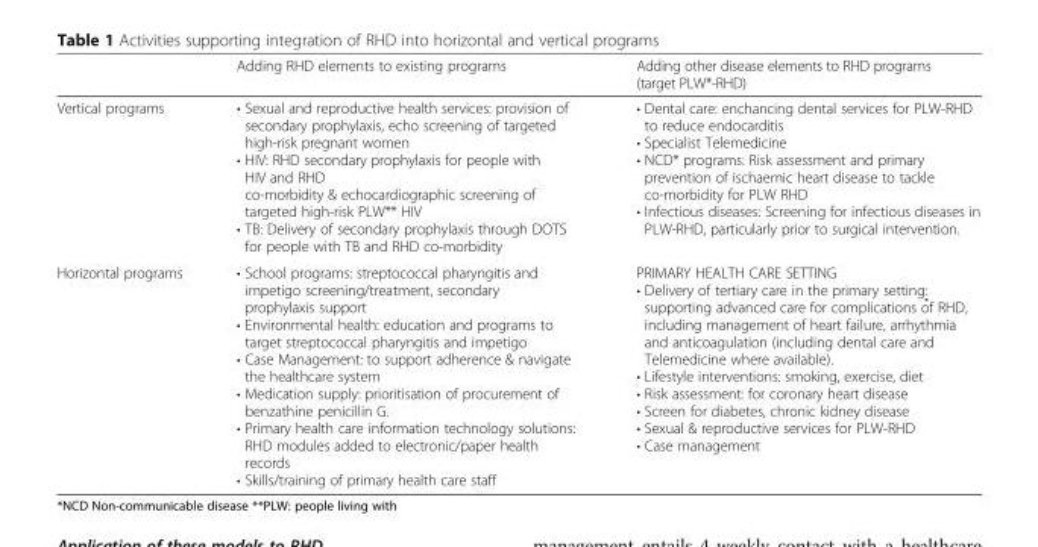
<table><thead><tr><td></td><td>Adding RHD elements to existing programs</td><td>Adding other disease elements to RHD programs (target PLW*-RHD)</td></tr></thead><tbody><tr><td>Vertical programs</td><td>• Sexual and reproductive health services: provision of secondary prophylaxis, echo screening of targeted high-risk pregnant women • HIV: RHD secondary prophylaxis for people with HIV and RHD co-morbidity &amp; echocardiographic screening of targeted high-risk PLW** HIV • TB: Delivery of secondary prophylaxis through DOTS for people with TB and RHD co-morbidity</td><td>• Dental care: enchancing dental services for PLW-RHD to reduce endocarditis • Specialist Telemedicine • NCD* programs: Risk assessment and primary prevention of ischaemic heart disease to tackle co-morbidity for PLW RHD • Infectious diseases: Screening for infectious diseases in PLW-RHD, particularly prior to surgical intervention.</td></tr><tr><td>Horizontal programs</td><td>• School programs: streptococcal pharyngitis and impetigo screening/treatment, secondary prophylaxis support • Environmental health: education and programs to target streptococcal pharyngitis and impetigo • Case Management: to support adherence &amp; navigate the healthcare system • Medication supply: prioritisation of procurement of benzathine penicillin G. • Primary health care information technology solutions: RHD modules added to electronic/paper health records • Skills/training of primary health care staff</td><td>PRIMARY HEALTH CARE SETTING • Delivery of tertiary care in the primary setting: supporting advanced care for complications of RHD, including management of heart failure, arrhythmia and anticoagulation (including dental care and Telemedicine where available). • Lifestyle interventions: smoking, exercise, diet • Risk assessment: for coronary heart disease • Screen for diabetes, chronic kidney disease • Sexual &amp; reproductive services for PLW-RHD • Case management</td></tr></tbody></table>